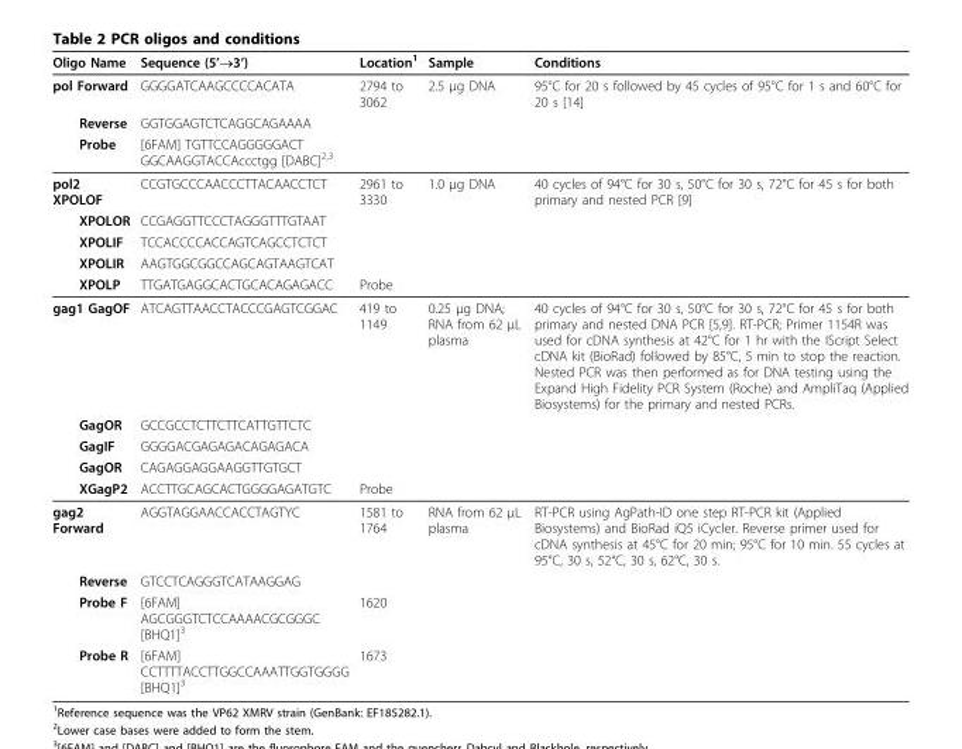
<table><thead><tr><td>Oligo Name</td><td>Sequence (5’→3’)</td><td>Location<sup>1</sup></td><td>Sample</td><td>Conditions</td></tr></thead><tbody><tr><td>pol Forward</td><td>GGGGATCAAGCCCCACATA</td><td>2794 to 3062</td><td>2.5 μg DNA</td><td>95°C for 20 s followed by 45 cycles of 95°C for 1 s and 60°C for 20 s [14]</td></tr><tr><td>Reverse</td><td>GGTGGAGTCTCAGGCAGAAAA</td><td></td><td></td><td></td></tr><tr><td>Probe</td><td>[6FAM] TGTTCCAGGGGGACT GGCAAGGTACCAccctgg [DABC]<sup>2,3</sup></td><td></td><td></td><td></td></tr><tr><td>pol2 XPOLOF</td><td>CCGTGCCCAACCCTTACAACCTCT</td><td>2961 to 3330</td><td>1.0 μg DNA</td><td>40 cycles of 94°C for 30 s, 50°C for 30 s, 72°C for 45 s for both primary and nested PCR [9]</td></tr><tr><td>XPOLOR</td><td>CCGAGGTTCCCTAGGGTTTGTAAT</td><td></td><td></td><td></td></tr><tr><td>XPOLIF</td><td>TCCACCCCACCAGTCAGCCTCTCT</td><td></td><td></td><td></td></tr><tr><td>XPOLIR</td><td>AAGTGGCGGCCAGCAGTAAGTCAT</td><td></td><td></td><td></td></tr><tr><td>XPOLP</td><td>TTGATGAGGCACTGCACAGAGACC</td><td>Probe</td><td></td><td></td></tr><tr><td>gag1 GagOF</td><td>ATCAGTTAACCTACCCGAGTCGGAC</td><td>419 to 1149</td><td>0.25 μg DNA; RNA from 62 μL plasma</td><td>40 cycles of 94°C for 30 s, 50°C for 30 s, 72°C for 45 s for both primary and nested DNA PCR [5,9]. RT-PCR; Primer 1154R was used for cDNA synthesis at 42°C for 1 hr with the IScript Select cDNA kit (BioRad) followed by 85°C, 5 min to stop the reaction. Nested PCR was then performed as for DNA testing using the Expand High Fidelity PCR System (Roche) and AmpliTaq (Applied Biosystems) for the primary and nested PCRs.</td></tr><tr><td>GagOR</td><td>GCCGCCTCTTCTTCATTGTTCTC</td><td></td><td></td><td></td></tr><tr><td>GagIF</td><td>GGGGACGAGAGACAGAGACA</td><td></td><td></td><td></td></tr><tr><td>GagOR</td><td>CAGAGGAGGAAGGTTGTGCT</td><td></td><td></td><td></td></tr><tr><td>XGagP2</td><td>ACCTTGCAGCACTGGGGAGATGTC</td><td>Probe</td><td></td><td></td></tr><tr><td>gag2 Forward</td><td>AGGTAGGAACCACCTAGTYC</td><td>1581 to 1764</td><td>RNA from 62 μL plasma</td><td>RT-PCR using AgPath-ID one step RT-PCR kit (Applied Biosystems) and BioRad iQ5 iCycler. Reverse primer used for cDNA synthesis at 45°C for 20 min; 95°C for 10 min. 55 cycles at 95°C, 30 s, 52°C, 30 s, 62°C, 30 s.</td></tr><tr><td>Reverse</td><td>GTCCTCAGGGTCATAAGGAG</td><td></td><td></td><td></td></tr><tr><td>Probe F</td><td>[6FAM] AGCGGGTCTCCAAAACGCGGGC [BHQ1]<sup>3</sup></td><td>1620</td><td></td><td></td></tr><tr><td>Probe R</td><td>[6FAM] CCTTTTACCTTGGCCAAATTGGTGGGG [BHQ1]<sup>3</sup></td><td>1673</td><td></td><td></td></tr></tbody></table>